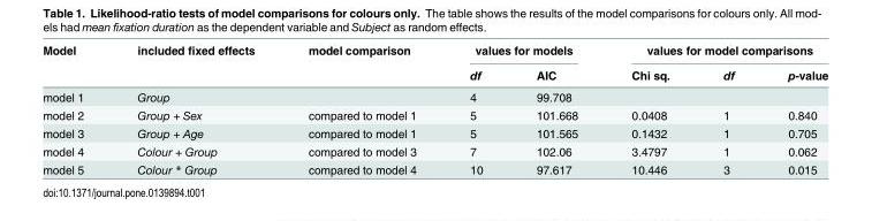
<table><thead><tr><td rowspan="2">Model</td><td rowspan="2">included fixed effects</td><td rowspan="2">model comparison</td><td colspan="2">values for models</td><td colspan="3">values for model comparisons</td></tr><tr><td>df</td><td>AIC</td><td>Chi sq.</td><td>df</td><td>p-value</td></tr></thead><tbody><tr><td>model 1</td><td>Group</td><td></td><td>4</td><td>99.708</td><td></td><td></td><td></td></tr><tr><td>model 2</td><td>Group + Sex</td><td>compared to model 1</td><td>5</td><td>101.668</td><td>0.0408</td><td>1</td><td>0.840</td></tr><tr><td>model 3</td><td>Group + Age</td><td>compared to model 1</td><td>5</td><td>101.565</td><td>0.1432</td><td>1</td><td>0.705</td></tr><tr><td>model 4</td><td>Colour + Group</td><td>compared to model 3</td><td>7</td><td>102.06</td><td>3.4797</td><td>1</td><td>0.062</td></tr><tr><td>model 5</td><td>Colour * Group</td><td>compared to model 4</td><td>10</td><td>97.617</td><td>10.446</td><td>3</td><td>0.015</td></tr></tbody></table>